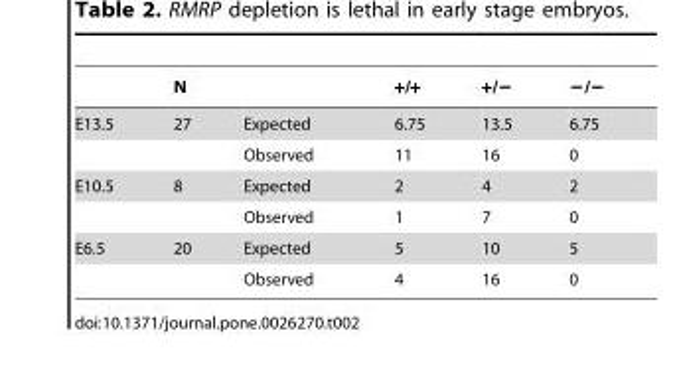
<table><thead><tr><td></td><td>N</td><td></td><td>+/+</td><td>+/−</td><td>−/−</td></tr></thead><tbody><tr><td rowspan="2">E13.5</td><td>27</td><td>Expected</td><td>6.75</td><td>13.5</td><td>6.75</td></tr><tr><td></td><td>Observed</td><td>11</td><td>16</td><td>0</td></tr><tr><td rowspan="2">E10.5</td><td>8</td><td>Expected</td><td>2</td><td>4</td><td>2</td></tr><tr><td></td><td>Observed</td><td>1</td><td>7</td><td>0</td></tr><tr><td rowspan="2">E6.5</td><td>20</td><td>Expected</td><td>5</td><td>10</td><td>5</td></tr><tr><td></td><td>Observed</td><td>4</td><td>16</td><td>0</td></tr></tbody></table>